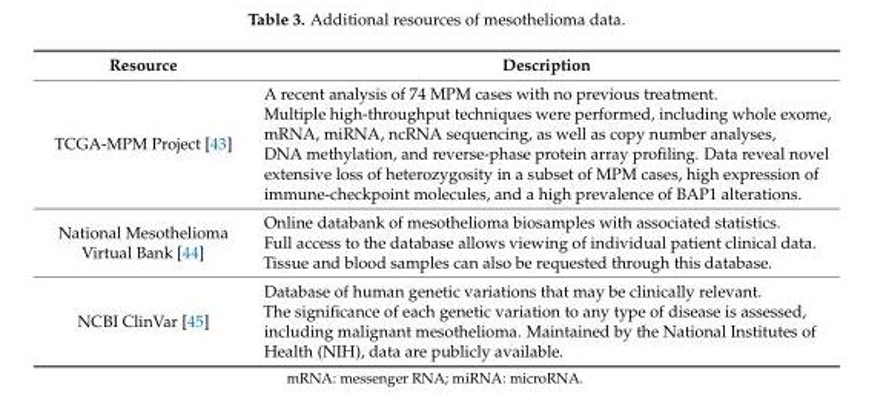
<table><thead><tr><td>Resource</td><td>Description</td></tr></thead><tbody><tr><td>TCGA-MPM Project [43]</td><td>A recent analysis of 74 MPM cases with no previous treatment. Multiple high-throughput techniques were performed, including whole exome, mRNA, miRNA, ncRNA sequencing, as well as copy number analyses, DNA methylation, and reverse-phase protein array profiling. Data reveal novel extensive loss of heterozygosity in a subset of MPM cases, high expression of immune-checkpoint molecules, and a high prevalence of BAP1 alterations.</td></tr><tr><td>National Mesothelioma Virtual Bank [44]</td><td>Online databank of mesothelioma biosamples with associated statistics. Full access to the database allows viewing of individual patient clinical data. Tissue and blood samples can also be requested through this database.</td></tr><tr><td>NCBI ClinVar [45]</td><td>Database of human genetic variations that may be clinically relevant. The significance of each genetic variation to any type of disease is assessed, including malignant mesothelioma. Maintained by the National Institutes of Health (NIH), data are publicly available.</td></tr></tbody></table>